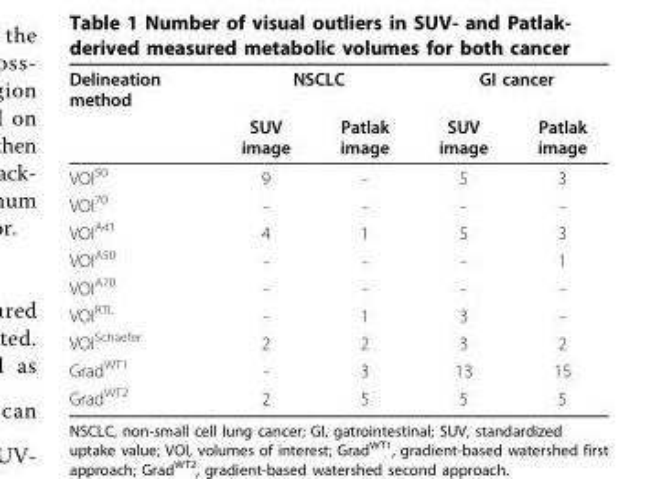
<table><thead><tr><td rowspan="2">Delineation method</td><td colspan="2">NSCLC</td><td colspan="2">GI cancer</td></tr><tr><td>SUV image</td><td>Patlak image</td><td>SUV image</td><td>Patlak image</td></tr></thead><tbody><tr><td>VOI<sup>50</sup></td><td>9</td><td>-</td><td>5</td><td>3</td></tr><tr><td>VOI<sup>70</sup></td><td>-</td><td>-</td><td>-</td><td>-</td></tr><tr><td>VOI<sup>A41</sup></td><td>4</td><td>1</td><td>5</td><td>3</td></tr><tr><td>VOI<sup>A50</sup></td><td>-</td><td>-</td><td>-</td><td>1</td></tr><tr><td>VOI<sup>A70</sup></td><td>-</td><td>-</td><td>-</td><td>-</td></tr><tr><td>VOI<sup>RTL</sup></td><td>-</td><td>1</td><td>3</td><td>-</td></tr><tr><td>VOI<sup>Schaefer</sup></td><td>2</td><td>2</td><td>3</td><td>2</td></tr><tr><td>Grad<sup>WT1</sup></td><td>-</td><td>3</td><td>13</td><td>15</td></tr><tr><td>Grad<sup>WT2</sup></td><td>2</td><td>5</td><td>5</td><td>5</td></tr></tbody></table>